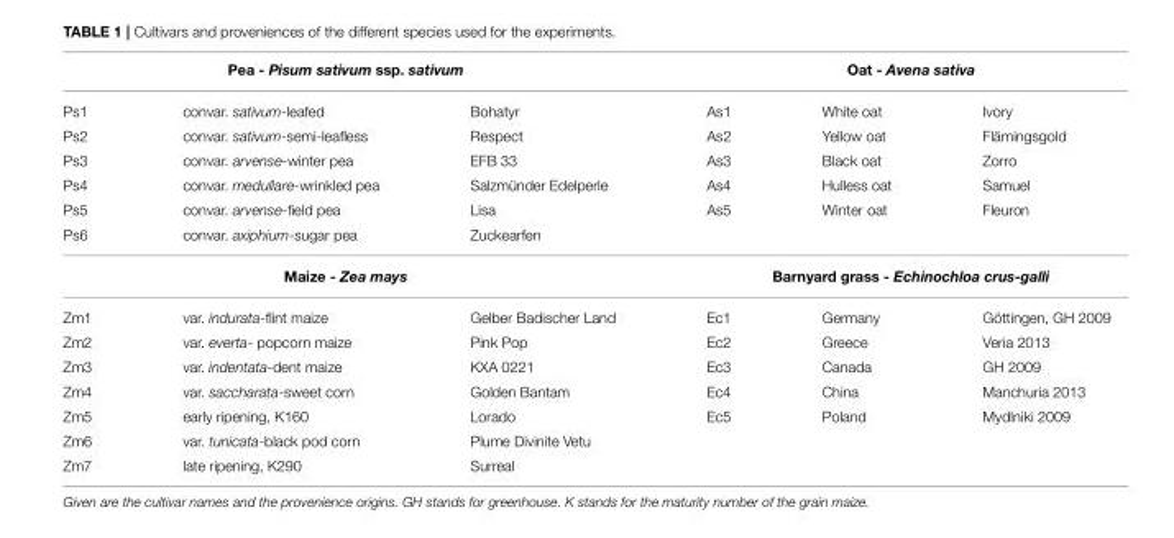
<table><thead><tr><td colspan="3">Pea - Pisum sativum ssp. sativum</td><td colspan="3">Oat - Avena sativa</td></tr><tr><td>Ps1</td><td>convar. sativum-leafed</td><td>Bohatyr</td><td>As1</td><td>White oat</td><td>Ivory</td></tr></thead><tbody><tr><td>Ps2</td><td>convar. sativum-semi-leafless</td><td>Respect</td><td>As2</td><td>Yellow oat</td><td>Flämingsgold</td></tr><tr><td>Ps3</td><td>convar. arvense-winter pea</td><td>EFB 33</td><td>As3</td><td>Black oat</td><td>Zorro</td></tr><tr><td>Ps4</td><td>convar. medullare-wrinkled pea</td><td>Salzmünder Edelperle</td><td>As4</td><td>Hulless oat</td><td>Samuel</td></tr><tr><td>Ps5</td><td>convar. arvense-field pea</td><td>Lisa</td><td>As5</td><td>Winter oat</td><td>Fleuron</td></tr><tr><td>Ps6</td><td>convar. axiphium-sugar pea</td><td>Zuckearfen</td><td></td><td></td><td></td></tr><tr><td colspan="3">Maize - Zea mays</td><td colspan="3">Barnyard grass - Echinochloa crus-galli</td></tr><tr><td>Zm1</td><td>var. indurata-flint maize</td><td>Gelber Badischer Land</td><td>Ec1</td><td>Germany</td><td>Göttingen, GH 2009</td></tr><tr><td>Zm2</td><td>var. everta- popcorn maize</td><td>Pink Pop</td><td>Ec2</td><td>Greece</td><td>Veria 2013</td></tr><tr><td>Zm3</td><td>var. indentata-dent maize</td><td>KXA 0221</td><td>Ec3</td><td>Canada</td><td>GH 2009</td></tr><tr><td>Zm4</td><td>var. saccharata-sweet corn</td><td>Golden Bantam</td><td>Ec4</td><td>China</td><td>Manchuria 2013</td></tr><tr><td>Zm5</td><td>early ripening, K160</td><td>Lorado</td><td>Ec5</td><td>Poland</td><td>Mydlniki 2009</td></tr><tr><td>Zm6</td><td>var. tunicata-black pod corn</td><td>Plume Divinite Vetu</td><td></td><td></td><td></td></tr><tr><td>Zm7</td><td>late ripening, K290</td><td>Surreal</td><td></td><td></td><td></td></tr></tbody></table>